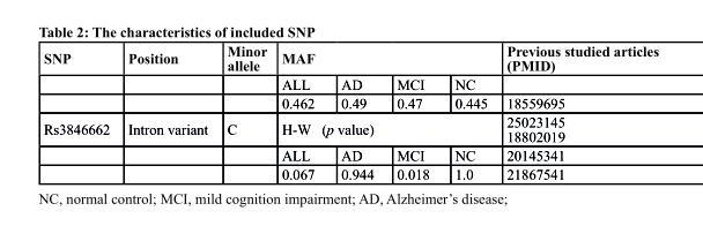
<table><thead><tr><td rowspan="2">sNP</td><td rowspan="2">Position</td><td rowspan="2">Minor allele</td><td colspan="4">MAF</td><td rowspan="2">Previous studied articles (PMID)</td></tr><tr><td>ALL</td><td>AD</td><td>MCI</td><td>NC</td></tr></thead><tbody><tr><td></td><td></td><td></td><td>0.462</td><td>0.49</td><td>0.47</td><td>0.445</td><td>18559695</td></tr><tr><td rowspan="3">Rs3846662</td><td>Intron variant</td><td>C</td><td colspan="4">H-W (p value)</td><td>25023145 18802019</td></tr><tr><td></td><td></td><td>ALL</td><td>AD</td><td>MCI</td><td>NC</td><td>20145341</td></tr><tr><td></td><td></td><td>0.067</td><td>0.944</td><td>0.018</td><td>1.0</td><td>21867541</td></tr></tbody></table>